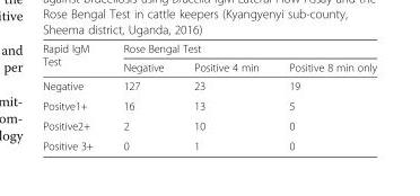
<table><thead><tr><td rowspan="2">Rapid IgM Test</td><td colspan="3">Rose Bengal Test</td></tr><tr><td>Negative</td><td>Positive 4 min</td><td>Positive 8 min only</td></tr></thead><tbody><tr><td>Negative</td><td>127</td><td>23</td><td>19</td></tr><tr><td>Positve1+</td><td>16</td><td>13</td><td>5</td></tr><tr><td>Positive2+</td><td>2</td><td>10</td><td>0</td></tr><tr><td>Positive 3+</td><td>0</td><td>1</td><td>0</td></tr></tbody></table>